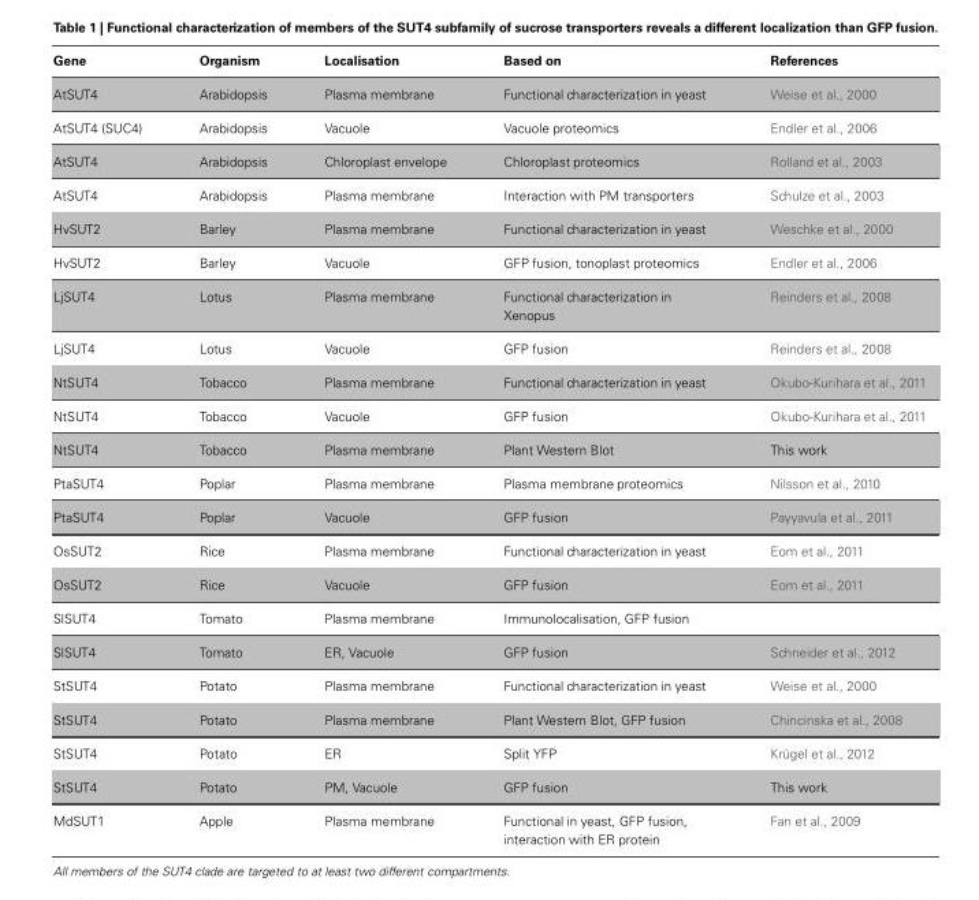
<table><thead><tr><td>Gene</td><td>Organism</td><td>Localisation</td><td>Based on</td><td>References</td></tr></thead><tbody><tr><td>AtSUT4</td><td>Arabidopsis</td><td>Plasma membrane</td><td>Functional characterization in yeast</td><td>Weise et al., 2000</td></tr><tr><td>AtSUT4 (SUC4)</td><td>Arabidopsis</td><td>Vacuole</td><td>Vacuole proteomics</td><td>Endler et al., 2006</td></tr><tr><td>AtSUT4</td><td>Arabidopsis</td><td>Chloroplast envelope</td><td>Chloroplast proteomics</td><td>Rolland et al., 2003</td></tr><tr><td>AtSUT4</td><td>Arabidopsis</td><td>Plasma membrane</td><td>Interaction with PM transporters</td><td>Schulze et al., 2003</td></tr><tr><td>HvSUT2</td><td>Barley</td><td>Plasma membrane</td><td>Functional characterization in yeast</td><td>Weschke et al., 2000</td></tr><tr><td>HvSUT2</td><td>Barley</td><td>Vacuole</td><td>GFP fusion, tonoplast proteomics</td><td>Endler et al., 2006</td></tr><tr><td>LjSUT4</td><td>Lotus</td><td>Plasma membrane</td><td>Functional characterization in Xenopus</td><td>Reinders et al., 2008</td></tr><tr><td>LjSUT4</td><td>Lotus</td><td>Vacuole</td><td>GFP fusion</td><td>Reinders et al., 2008</td></tr><tr><td>NtSUT4</td><td>Tobacco</td><td>Plasma membrane</td><td>Functional characterization in yeast</td><td>Okubo-Kurihara et al., 2011</td></tr><tr><td>NtSUT4</td><td>Tobacco</td><td>Vacuole</td><td>GFP fusion</td><td>Okubo-Kurihara et al., 2011</td></tr><tr><td>NtSUT4</td><td>Tobacco</td><td>Plasma membrane</td><td>Plant Western Blot</td><td>This work</td></tr><tr><td>PtaSUT4</td><td>Poplar</td><td>Plasma membrane</td><td>Plasma membrane proteomics</td><td>Nilsson et al., 2010</td></tr><tr><td>PtaSUT4</td><td>Poplar</td><td>Vacuole</td><td>GFP fusion</td><td>Payyavula et al., 2011</td></tr><tr><td>OsSUT2</td><td>Rice</td><td>Plasma membrane</td><td>Functional characterization in yeast</td><td>Eom et al., 2011</td></tr><tr><td>OsSUT2</td><td>Rice</td><td>Vacuole</td><td>GFP fusion</td><td>Eom et al., 2011</td></tr><tr><td>SlSUT4</td><td>Tomato</td><td>Plasma membrane</td><td>Immunolocalisation, GFP fusion</td><td></td></tr><tr><td>SlSUT4</td><td>Tomato</td><td>ER, Vacuole</td><td>GFP fusion</td><td>Schneider et al., 2012</td></tr><tr><td>StSUT4</td><td>Potato</td><td>Plasma membrane</td><td>Functional characterization in yeast</td><td>Weise et al., 2000</td></tr><tr><td>StSUT4</td><td>Potato</td><td>Plasma membrane</td><td>Plant Western Blot, GFP fusion</td><td>Chincinska et al., 2008</td></tr><tr><td>StSUT4</td><td>Potato</td><td>ER</td><td>Split YFP</td><td>Krügel et al., 2012</td></tr><tr><td>StSUT4</td><td>Potato</td><td>PM, Vacuole</td><td>GFP fusion</td><td>This work</td></tr><tr><td>MdSUT1</td><td>Apple</td><td>Plasma membrane</td><td>Functional in yeast, GFP fusion, interaction with ER protein</td><td>Fan et al., 2009</td></tr></tbody></table>